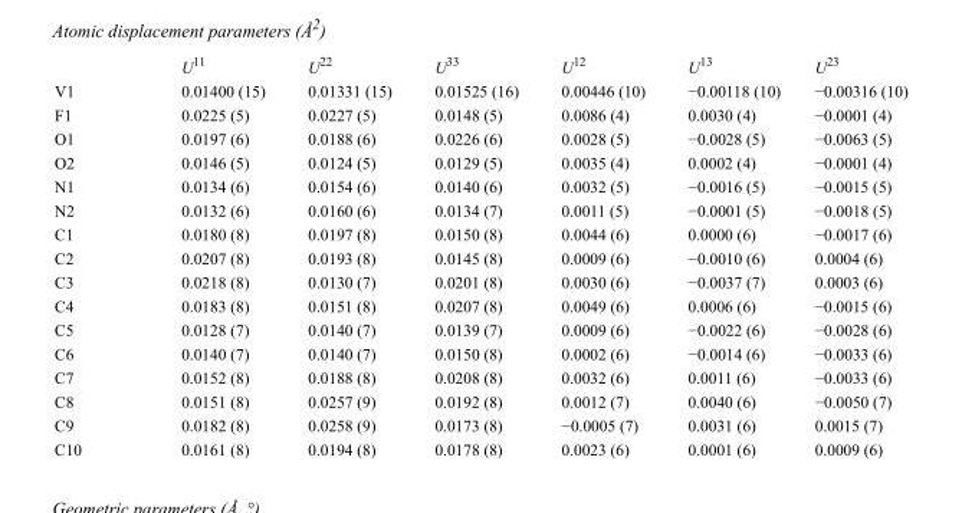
<table><thead><tr><td></td><td>U<sup>11</sup></td><td>U<sup>22</sup></td><td>U<sup>33</sup></td><td>U<sup>12</sup></td><td>U<sup>13</sup></td><td>U<sup>23</sup></td></tr></thead><tbody><tr><td>V1</td><td>0.01400 (15)</td><td>0.01331 (15)</td><td>0.01525 (16)</td><td>0.00446 (10)</td><td>−0.00118 (10)</td><td>−0.00316 (10)</td></tr><tr><td>F1</td><td>0.0225 (5)</td><td>0.0227 (5)</td><td>0.0148 (5)</td><td>0.0086 (4)</td><td>0.0030 (4)</td><td>−0.0001 (4)</td></tr><tr><td>O1</td><td>0.0197 (6)</td><td>0.0188 (6)</td><td>0.0226 (6)</td><td>0.0028 (5)</td><td>−0.0028 (5)</td><td>−0.0063 (5)</td></tr><tr><td>O2</td><td>0.0146 (5)</td><td>0.0124 (5)</td><td>0.0129 (5)</td><td>0.0035 (4)</td><td>0.0002 (4)</td><td>−0.0001 (4)</td></tr><tr><td>N1</td><td>0.0134 (6)</td><td>0.0154 (6)</td><td>0.0140 (6)</td><td>0.0032 (5)</td><td>−0.0016 (5)</td><td>−0.0015 (5)</td></tr><tr><td>N2</td><td>0.0132 (6)</td><td>0.0160 (6)</td><td>0.0134 (7)</td><td>0.0011 (5)</td><td>−0.0001 (5)</td><td>−0.0018 (5)</td></tr><tr><td>C1</td><td>0.0180 (8)</td><td>0.0197 (8)</td><td>0.0150 (8)</td><td>0.0044 (6)</td><td>0.0000 (6)</td><td>−0.0017 (6)</td></tr><tr><td>C2</td><td>0.0207 (8)</td><td>0.0193 (8)</td><td>0.0145 (8)</td><td>0.0009 (6)</td><td>−0.0010 (6)</td><td>0.0004 (6)</td></tr><tr><td>C3</td><td>0.0218 (8)</td><td>0.0130 (7)</td><td>0.0201 (8)</td><td>0.0030 (6)</td><td>−0.0037 (7)</td><td>0.0003 (6)</td></tr><tr><td>C4</td><td>0.0183 (8)</td><td>0.0151 (8)</td><td>0.0207 (8)</td><td>0.0049 (6)</td><td>0.0006 (6)</td><td>−0.0015 (6)</td></tr><tr><td>C5</td><td>0.0128 (7)</td><td>0.0140 (7)</td><td>0.0139 (7)</td><td>0.0009 (6)</td><td>−0.0022 (6)</td><td>−0.0028 (6)</td></tr><tr><td>C6</td><td>0.0140 (7)</td><td>0.0140 (7)</td><td>0.0150 (8)</td><td>0.0002 (6)</td><td>−0.0014 (6)</td><td>−0.0033 (6)</td></tr><tr><td>C7</td><td>0.0152 (8)</td><td>0.0188 (8)</td><td>0.0208 (8)</td><td>0.0032 (6)</td><td>0.0011 (6)</td><td>−0.0033 (6)</td></tr><tr><td>C8</td><td>0.0151 (8)</td><td>0.0257 (9)</td><td>0.0192 (8)</td><td>0.0012 (7)</td><td>0.0040 (6)</td><td>−0.0050 (7)</td></tr><tr><td>C9</td><td>0.0182 (8)</td><td>0.0258 (9)</td><td>0.0173 (8)</td><td>−0.0005 (7)</td><td>0.0031 (6)</td><td>0.0015 (7)</td></tr><tr><td>C10</td><td>0.0161 (8)</td><td>0.0194 (8)</td><td>0.0178 (8)</td><td>0.0023 (6)</td><td>0.0001 (6)</td><td>0.0009 (6)</td></tr></tbody></table>